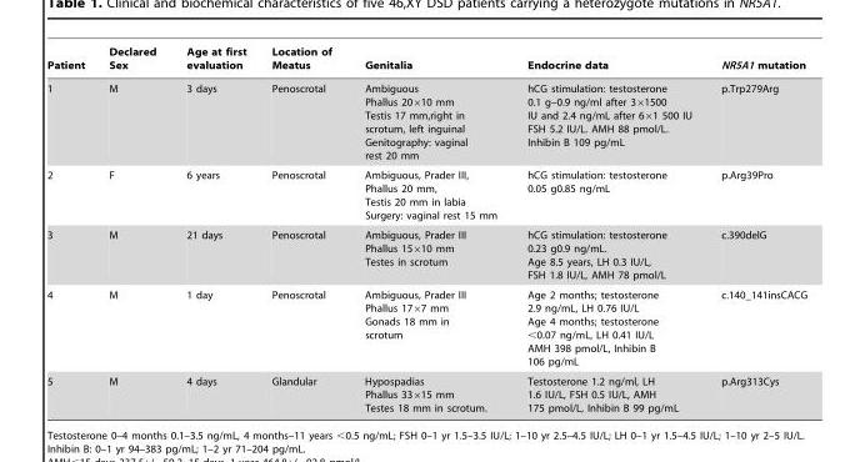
<table><thead><tr><td>Patient</td><td>Declared Sex</td><td>Age at first evaluation</td><td>Location of Meatus</td><td>Genitalia</td><td>Endocrine data</td><td>NR5A1 mutation</td></tr></thead><tbody><tr><td>1</td><td>M</td><td>3 days</td><td>Penoscrotal</td><td>Ambiguous Phallus 20×10 mm Testis 17 mm,right in scrotum, left inguinal Genitography: vaginal rest 20 mm</td><td>hCG stimulation: testosterone 0.1 g–0.9 ng/ml after 3×1500 IU and 2.4 ng/mL after 6×1 500 IU FSH 5.2 IU/L. AMH 88 pmol/L. Inhibin B 109 pg/mL</td><td>p.Trp279Arg</td></tr><tr><td>2</td><td>F</td><td>6 years</td><td>Penoscrotal</td><td>Ambiguous, Prader III, Phallus 20 mm, Testis 20 mm in labia Surgery: vaginal rest 15 mm</td><td>hCG stimulation: testosterone 0.05 g0.85 ng/mL</td><td>p.Arg39Pro</td></tr><tr><td>3</td><td>M</td><td>21 days</td><td>Penoscrotal</td><td>Ambiguous, Prader III Phallus 15×10 mm Testes in scrotum</td><td>hCG stimulation: testosterone 0.23 g0.9 ng/mL. Age 8.5 years, LH 0.3 IU/L, FSH 1.8 IU/L, AMH 78 pmol/L</td><td>c.390delG</td></tr><tr><td>4</td><td>M</td><td>1 day</td><td>Penoscrotal</td><td>Ambiguous, Prader III Phallus 17×7 mm Gonads 18 mm in scrotum</td><td>Age 2 months; testosterone 2.9 ng/mL, LH 0.76 IU/L Age 4 months; testosterone &lt;0.07 ng/mL, LH 0.41 IU/L AMH 398 pmol/L, Inhibin B 106 pg/mL</td><td>c.140_141insCACG</td></tr><tr><td>5</td><td>M</td><td>4 days</td><td>Glandular</td><td>Hypospadias Phallus 33×15 mm Testes 18 mm in scrotum.</td><td>Testosterone 1.2 ng/ml, LH 1.6 IU/L, FSH 0.5 IU/L, AMH 175 pmol/L, Inhibin B 99 pg/mL</td><td>p.Arg313Cys</td></tr></tbody></table>